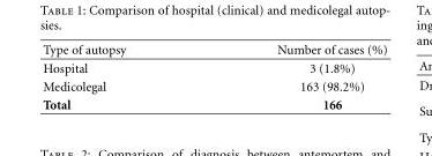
<table><thead><tr><td>Type of autopsy</td><td>Number of cases (%)</td></tr></thead><tbody><tr><td>Hospital</td><td>3 (1.8%)</td></tr><tr><td>Medicolegal</td><td>163 (98.2%)</td></tr><tr><td>Total</td><td>166</td></tr></tbody></table>